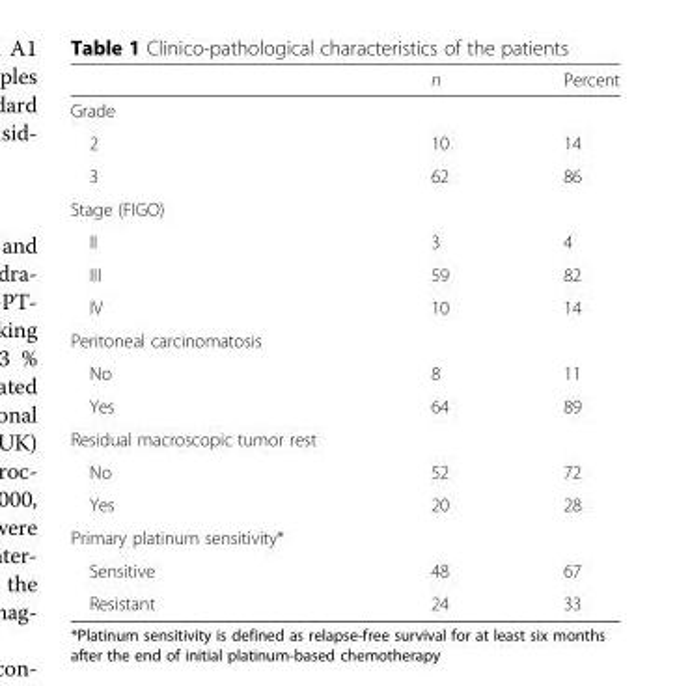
<table><thead><tr><td></td><td>n</td><td>Percent</td></tr></thead><tbody><tr><td colspan="3">Grade</td></tr><tr><td>2</td><td>10</td><td>14</td></tr><tr><td>3</td><td>62</td><td>86</td></tr><tr><td colspan="3">Stage (FIGO)</td></tr><tr><td>II</td><td>3</td><td>4</td></tr><tr><td>III</td><td>59</td><td>82</td></tr><tr><td>IV</td><td>10</td><td>14</td></tr><tr><td colspan="3">Peritoneal carcinomatosis</td></tr><tr><td>No</td><td>8</td><td>11</td></tr><tr><td>Yes</td><td>64</td><td>89</td></tr><tr><td colspan="3">Residual macroscopic tumor rest</td></tr><tr><td>No</td><td>52</td><td>72</td></tr><tr><td>Yes</td><td>20</td><td>28</td></tr><tr><td colspan="3">Primary platinum sensitivity*</td></tr><tr><td>Sensitive</td><td>48</td><td>67</td></tr><tr><td>Resistant</td><td>24</td><td>33</td></tr></tbody></table>